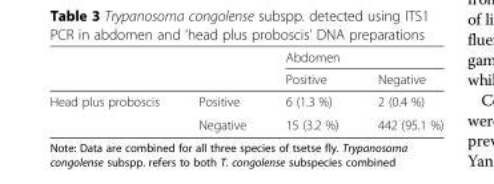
<table><thead><tr><td rowspan="2"></td><td rowspan="2"></td><td colspan="2">Abdomen</td></tr><tr><td>Positive</td><td>Negative</td></tr></thead><tbody><tr><td rowspan="2">Head plus proboscis</td><td>Positive</td><td>6 (1.3 %)</td><td>2 (0.4 %)</td></tr><tr><td>Negative</td><td>15 (3.2 %)</td><td>442 (95.1 %)</td></tr></tbody></table>